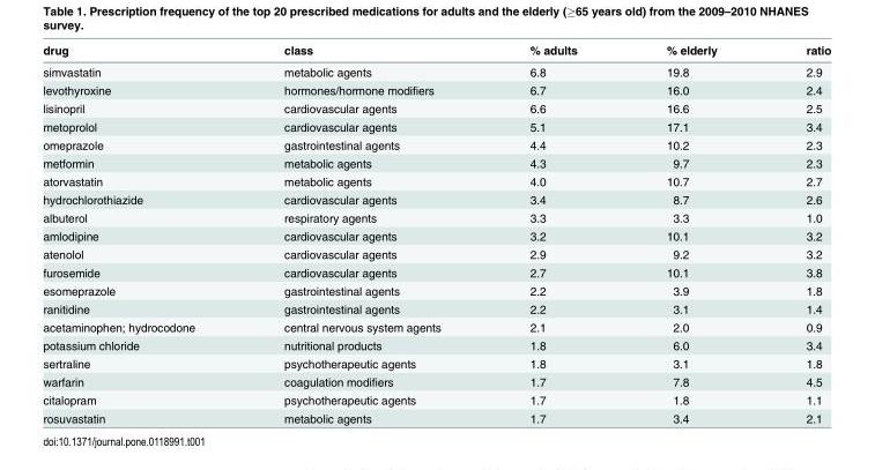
<table><thead><tr><td>drug</td><td>class</td><td>% adults</td><td>% elderly</td><td>ratio</td></tr></thead><tbody><tr><td>simvastatin</td><td>metabolic agents</td><td>6.8</td><td>19.8</td><td>2.9</td></tr><tr><td>levothyroxine</td><td>hormones/hormone modifiers</td><td>6.7</td><td>16.0</td><td>2.4</td></tr><tr><td>lisinopril</td><td>cardiovascular agents</td><td>6.6</td><td>16.6</td><td>2.5</td></tr><tr><td>metoprolol</td><td>cardiovascular agents</td><td>5.1</td><td>17.1</td><td>3.4</td></tr><tr><td>omeprazole</td><td>gastrointestinal agents</td><td>4.4</td><td>10.2</td><td>2.3</td></tr><tr><td>metformin</td><td>metabolic agents</td><td>4.3</td><td>9.7</td><td>2.3</td></tr><tr><td>atorvastatin</td><td>metabolic agents</td><td>4.0</td><td>10.7</td><td>2.7</td></tr><tr><td>hydrochlorothiazide</td><td>cardiovascular agents</td><td>3.4</td><td>8.7</td><td>2.6</td></tr><tr><td>albuterol</td><td>respiratory agents</td><td>3.3</td><td>3.3</td><td>1.0</td></tr><tr><td>amlodipine</td><td>cardiovascular agents</td><td>3.2</td><td>10.1</td><td>3.2</td></tr><tr><td>atenolol</td><td>cardiovascular agents</td><td>2.9</td><td>9.2</td><td>3.2</td></tr><tr><td>furosemide</td><td>cardiovascular agents</td><td>2.7</td><td>10.1</td><td>3.8</td></tr><tr><td>esomeprazole</td><td>gastrointestinal agents</td><td>2.2</td><td>3.9</td><td>1.8</td></tr><tr><td>ranitidine</td><td>gastrointestinal agents</td><td>2.2</td><td>3.1</td><td>1.4</td></tr><tr><td>acetaminophen; hydrocodone</td><td>central nervous system agents</td><td>2.1</td><td>2.0</td><td>0.9</td></tr><tr><td>potassium chloride</td><td>nutritional products</td><td>1.8</td><td>6.0</td><td>3.4</td></tr><tr><td>sertraline</td><td>psychotherapeutic agents</td><td>1.8</td><td>3.1</td><td>1.8</td></tr><tr><td>warfarin</td><td>coagulation modifiers</td><td>1.7</td><td>7.8</td><td>4.5</td></tr><tr><td>citalopram</td><td>psychotherapeutic agents</td><td>1.7</td><td>1.8</td><td>1.1</td></tr><tr><td>rosuvastatin</td><td>metabolic agents</td><td>1.7</td><td>3.4</td><td>2.1</td></tr></tbody></table>